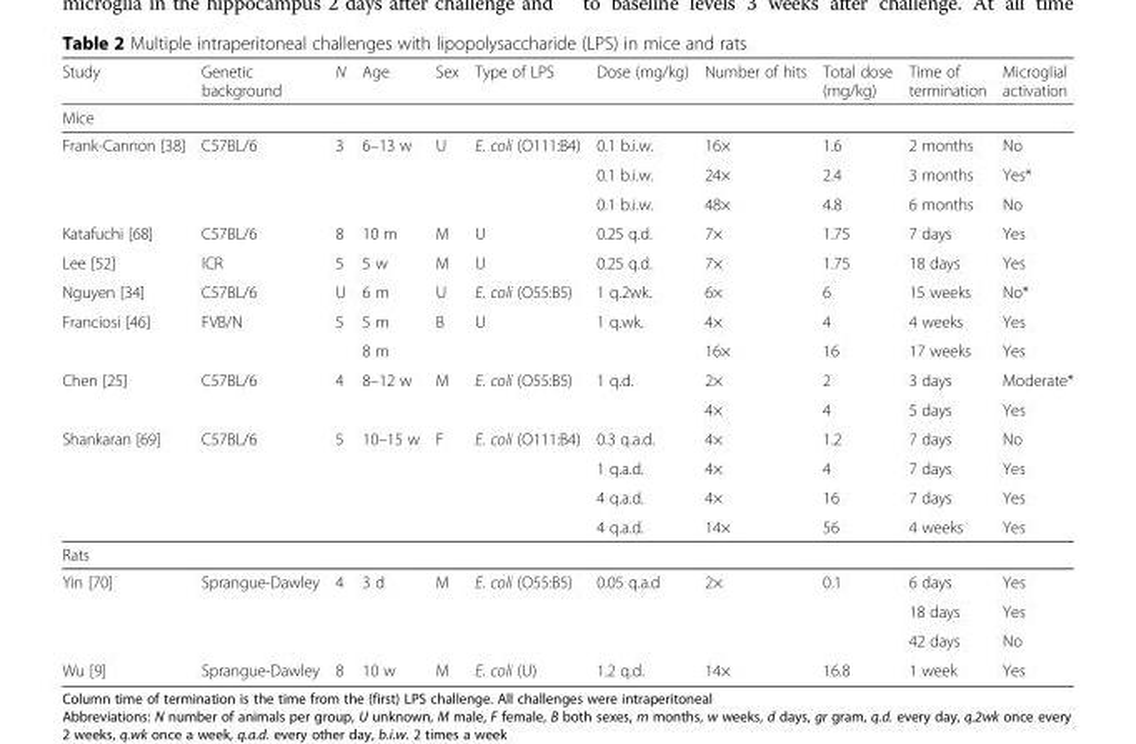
<table><thead><tr><td>Study</td><td>Genetic background</td><td>N</td><td>Age</td><td>Sex</td><td>Type of LPS</td><td>Dose (mg/kg)</td><td>Number of hits</td><td>Total dose (mg/kg)</td><td>Time of termination</td><td>Microglial activation</td></tr></thead><tbody><tr><td colspan="11">Mice</td></tr><tr><td rowspan="3">Frank-Cannon [38]</td><td>C57BL/6</td><td>3</td><td>6–13 w</td><td>U</td><td>E. coli (O111:B4)</td><td>0.1 b.i.w.</td><td>16×</td><td>1.6</td><td>2 months</td><td>No</td></tr><tr><td></td><td></td><td></td><td></td><td></td><td>0.1 b.i.w.</td><td>24×</td><td>2.4</td><td>3 months</td><td>Yes*</td></tr><tr><td></td><td></td><td></td><td></td><td></td><td>0.1 b.i.w.</td><td>48×</td><td>4.8</td><td>6 months</td><td>No</td></tr><tr><td>Katafuchi [68]</td><td>C57BL/6</td><td>8</td><td>10 m</td><td>M</td><td>U</td><td>0.25 q.d.</td><td>7×</td><td>1.75</td><td>7 days</td><td>Yes</td></tr><tr><td>Lee [52]</td><td>ICR</td><td>5</td><td>5 w</td><td>M</td><td>U</td><td>0.25 q.d.</td><td>7×</td><td>1.75</td><td>18 days</td><td>Yes</td></tr><tr><td>Nguyen [34]</td><td>C57BL/6</td><td>U</td><td>6 m</td><td>U</td><td>E. coli (O55:B5)</td><td>1 q.2wk.</td><td>6×</td><td>6</td><td>15 weeks</td><td>No*</td></tr><tr><td rowspan="2">Franciosi [46]</td><td>FVB/N</td><td>5</td><td>5 m</td><td>B</td><td>U</td><td>1 q.wk.</td><td>4×</td><td>4</td><td>4 weeks</td><td>Yes</td></tr><tr><td></td><td></td><td>8 m</td><td></td><td></td><td></td><td>16×</td><td>16</td><td>17 weeks</td><td>Yes</td></tr><tr><td rowspan="2">Chen [25]</td><td>C57BL/6</td><td>4</td><td>8–12 w</td><td>M</td><td>E. coli (O55:B5)</td><td>1 q.d.</td><td>2×</td><td>2</td><td>3 days</td><td>Moderate*</td></tr><tr><td></td><td></td><td></td><td></td><td></td><td></td><td>4×</td><td>4</td><td>5 days</td><td>Yes</td></tr><tr><td rowspan="4">Shankaran [69]</td><td>C57BL/6</td><td>5</td><td>10–15 w</td><td>F</td><td>E. coli (O111:B4)</td><td>0.3 q.a.d.</td><td>4×</td><td>1.2</td><td>7 days</td><td>No</td></tr><tr><td></td><td></td><td></td><td></td><td></td><td>1 q.a.d.</td><td>4×</td><td>4</td><td>7 days</td><td>Yes</td></tr><tr><td></td><td></td><td></td><td></td><td></td><td>4 q.a.d.</td><td>4×</td><td>16</td><td>7 days</td><td>Yes</td></tr><tr><td></td><td></td><td></td><td></td><td></td><td>4 q.a.d.</td><td>14×</td><td>56</td><td>4 weeks</td><td>Yes</td></tr><tr><td colspan="11">Rats</td></tr><tr><td rowspan="3">Yin [70]</td><td>Sprangue-Dawley</td><td>4</td><td>3 d</td><td>M</td><td>E. coli (O55:B5)</td><td>0.05 q.a.d</td><td>2×</td><td>0.1</td><td>6 days</td><td>Yes</td></tr><tr><td></td><td></td><td></td><td></td><td></td><td></td><td></td><td></td><td>18 days</td><td>Yes</td></tr><tr><td></td><td></td><td></td><td></td><td></td><td></td><td></td><td></td><td>42 days</td><td>No</td></tr><tr><td>Wu [9]</td><td>Sprangue-Dawley</td><td>8</td><td>10 w</td><td>M</td><td>E. coli (U)</td><td>1.2 q.d.</td><td>14×</td><td>16.8</td><td>1 week</td><td>Yes</td></tr></tbody></table>